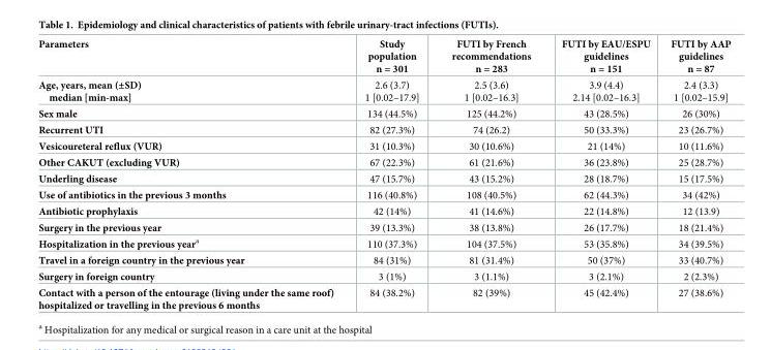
<table><thead><tr><td>Parameters</td><td>Study population n = 301</td><td>FUTI by French recommendations n = 283</td><td>FUTI by EAU/ESPU guidelines n = 151</td><td>FUTI by AAP guidelines n = 87</td></tr></thead><tbody><tr><td>Age, years, mean (±SD) median [min-max]</td><td>2.6 (3.7) 1 [0.02–17.9]</td><td>2.5 (3.6) 1 [0.02–16.3]</td><td>3.9 (4.4) 2.14 [0.02–16.3]</td><td>2.4 (3.3) 1 [0.02–15.9]</td></tr><tr><td>Sex male</td><td>134 (44.5%)</td><td>125 (44.2%)</td><td>43 (28.5%)</td><td>26 (30%)</td></tr><tr><td>Recurrent UTI</td><td>82 (27.3%)</td><td>74 (26.2)</td><td>50 (33.3%)</td><td>23 (26.7%)</td></tr><tr><td>Vesicoureteral reflux (VUR)</td><td>31 (10.3%)</td><td>30 (10.6%)</td><td>21 (14%)</td><td>10 (11.6%)</td></tr><tr><td>Other CAKUT (excluding VUR)</td><td>67 (22.3%)</td><td>61 (21.6%)</td><td>36 (23.8%)</td><td>25 (28.7%)</td></tr><tr><td>Underling disease</td><td>47 (15.7%)</td><td>43 (15.2%)</td><td>28 (18.7%)</td><td>15 (17.5%)</td></tr><tr><td>Use of antibiotics in the previous 3 months</td><td>116 (40.8%)</td><td>108 (40.5%)</td><td>62 (44.3%)</td><td>34 (42%)</td></tr><tr><td>Antibiotic prophylaxis</td><td>42 (14%)</td><td>41 (14.6%)</td><td>22 (14.8%)</td><td>12 (13.9)</td></tr><tr><td>Surgery in the previous year</td><td>39 (13.3%)</td><td>38 (13.8%)</td><td>26 (17.7%)</td><td>18 (21.4%)</td></tr><tr><td>Hospitalization in the previous year<sup>a</sup></td><td>110 (37.3%)</td><td>104 (37.5%)</td><td>53 (35.8%)</td><td>34 (39.5%)</td></tr><tr><td>Travel in a foreign country in the previous year</td><td>84 (31%)</td><td>81 (31.4%)</td><td>50 (37%)</td><td>33 (40.7%)</td></tr><tr><td>Surgery in foreign country</td><td>3 (1%)</td><td>3 (1.1%)</td><td>3 (2.1%)</td><td>2 (2.3%)</td></tr><tr><td>Contact with a person of the entourage (living under the same roof) hospitalized or travelling in the previous 6 months</td><td>84 (38.2%)</td><td>82 (39%)</td><td>45 (42.4%)</td><td>27 (38.6%)</td></tr></tbody></table>